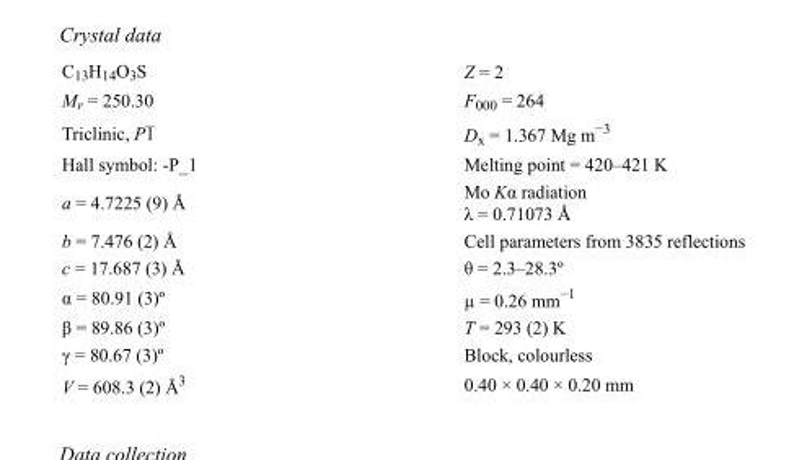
<table><tbody><tr><td>C<sub>13</sub>H<sub>14</sub>O<sub>3</sub>S</td><td>Z = 2</td></tr><tr><td>M<sub>r</sub> = 250.30</td><td>F<sub>000</sub> = 264</td></tr><tr><td>Triclinic, P1</td><td>D<sub>x</sub> = 1.367 Mg m<sup>−3</sup></td></tr><tr><td>Hall symbol: -P_1</td><td>Melting point = 420–421 K</td></tr><tr><td>a = 4.7225 (9) Å</td><td>Mo Kα radiation λ = 0.71073 Å</td></tr><tr><td>b = 7.476 (2) Å</td><td>Cell parameters from 3835 reflections</td></tr><tr><td>c = 17.687 (3) Å</td><td>θ = 2.3–28.3º</td></tr><tr><td>α = 80.91 (3)º</td><td>µ = 0.26 mm<sup>−1</sup></td></tr><tr><td>β = 89.86 (3)º</td><td>T = 293 (2) K</td></tr><tr><td>γ = 80.67 (3)º</td><td>Block, colourless</td></tr><tr><td>V = 608.3 (2) Å<sup>3</sup></td><td>0.40 × 0.40 × 0.20 mm</td></tr></tbody></table>